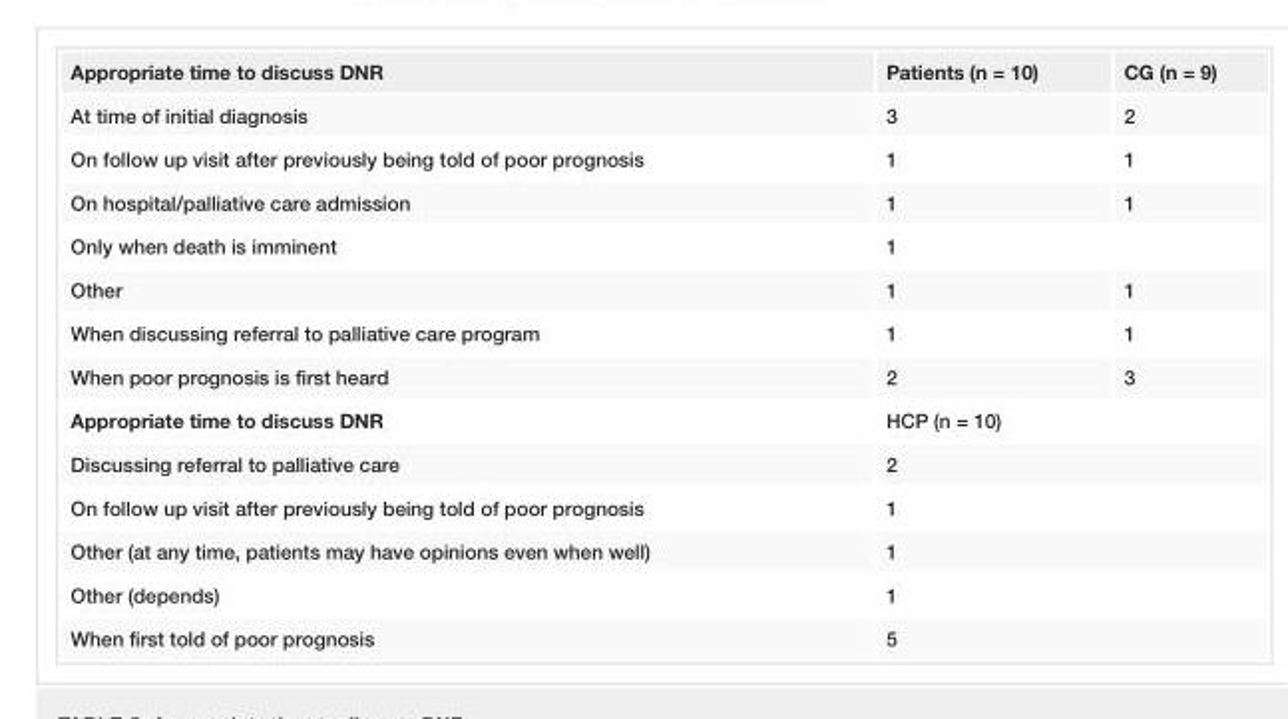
<table><tbody><tr><td>Appropriate time to discuss DNR</td><td>Patients (n = 10)</td><td>CG (n = 9)</td></tr><tr><td>At time of initial diagnosis</td><td>3</td><td>2</td></tr><tr><td>On follow up visit after previously being told of poor prognosis</td><td>1</td><td>1</td></tr><tr><td>On hospital/palliative care admission</td><td>1</td><td>1</td></tr><tr><td>Only when death is imminent</td><td>1</td><td></td></tr><tr><td>Other</td><td>1</td><td>1</td></tr><tr><td>When discussing referral to palliative care program</td><td>1</td><td>1</td></tr><tr><td>When poor prognosis is first heard</td><td>2</td><td>3</td></tr><tr><td>Appropriate time to discuss DNR</td><td colspan="2">HCP (n = 10)</td></tr><tr><td>Discussing referral to palliative care</td><td colspan="2">2</td></tr><tr><td>On follow up visit after previously being told of poor prognosis</td><td colspan="2">1</td></tr><tr><td>Other (at any time, patients may have opinions even when well)</td><td colspan="2">1</td></tr><tr><td>Other (depends)</td><td colspan="2">1</td></tr><tr><td>When first told of poor prognosis</td><td colspan="2">5</td></tr></tbody></table>